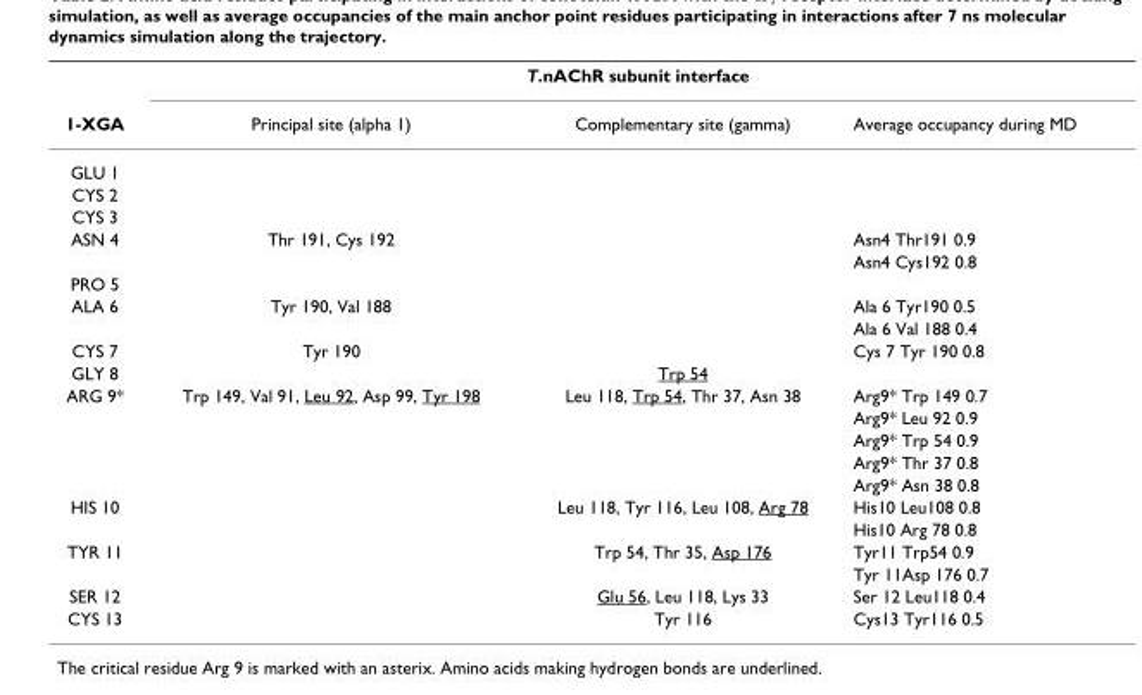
<table><thead><tr><td rowspan="2">1-XGA</td><td colspan="3">T.nAChR subunit interface</td></tr><tr><td>Principal site (alpha 1)</td><td>Complementary site (gamma)</td><td>Average occupancy during MD</td></tr></thead><tbody><tr><td colspan="4">GLU 1</td></tr><tr><td colspan="4">CYS 2</td></tr><tr><td colspan="4">CYS 3</td></tr><tr><td rowspan="2">ASN 4</td><td>Thr 191, Cys 192</td><td></td><td>Asn4 Thr191 0.9</td></tr><tr><td></td><td></td><td>Asn4 Cys192 0.8</td></tr><tr><td colspan="4">PRO 5</td></tr><tr><td rowspan="2">ALA 6</td><td>Tyr 190, Val 188</td><td></td><td>Ala 6 Tyr190 0.5</td></tr><tr><td></td><td></td><td>Ala 6 Val 188 0.4</td></tr><tr><td>CYS 7</td><td>Tyr 190</td><td></td><td>Cys 7 Tyr 190 0.8</td></tr><tr><td>GLY 8</td><td></td><td>Trp 54</td><td></td></tr><tr><td rowspan="5">ARG 9*</td><td>Trp 149, Val 91, Leu 92, Asp 99, Tyr 198</td><td>Leu 118, Trp 54, Thr 37, Asn 38</td><td>Arg9* Trp 149 0.7</td></tr><tr><td></td><td></td><td>Arg9* Leu 92 0.9</td></tr><tr><td></td><td></td><td>Arg9* Trp 54 0.9</td></tr><tr><td></td><td></td><td>Arg9* Thr 37 0.8</td></tr><tr><td></td><td></td><td>Arg9* Asn 38 0.8</td></tr><tr><td rowspan="2">HIS 10</td><td></td><td>Leu 118, Tyr 116, Leu 108, Arg 78</td><td>His10 Leu108 0.8</td></tr><tr><td></td><td></td><td>His10 Arg 78 0.8</td></tr><tr><td rowspan="2">TYR 11</td><td></td><td>Trp 54, Thr 35, Asp 176</td><td>Tyr11 Trp54 0.9</td></tr><tr><td></td><td></td><td>Tyr 11Asp 176 0.7</td></tr><tr><td>SER 12</td><td></td><td>Glu 56, Leu 118, Lys 33</td><td>Ser 12 Leu118 0.4</td></tr><tr><td>CYS 13</td><td></td><td>Tyr 116</td><td>Cys13 Tyr116 0.5</td></tr></tbody></table>